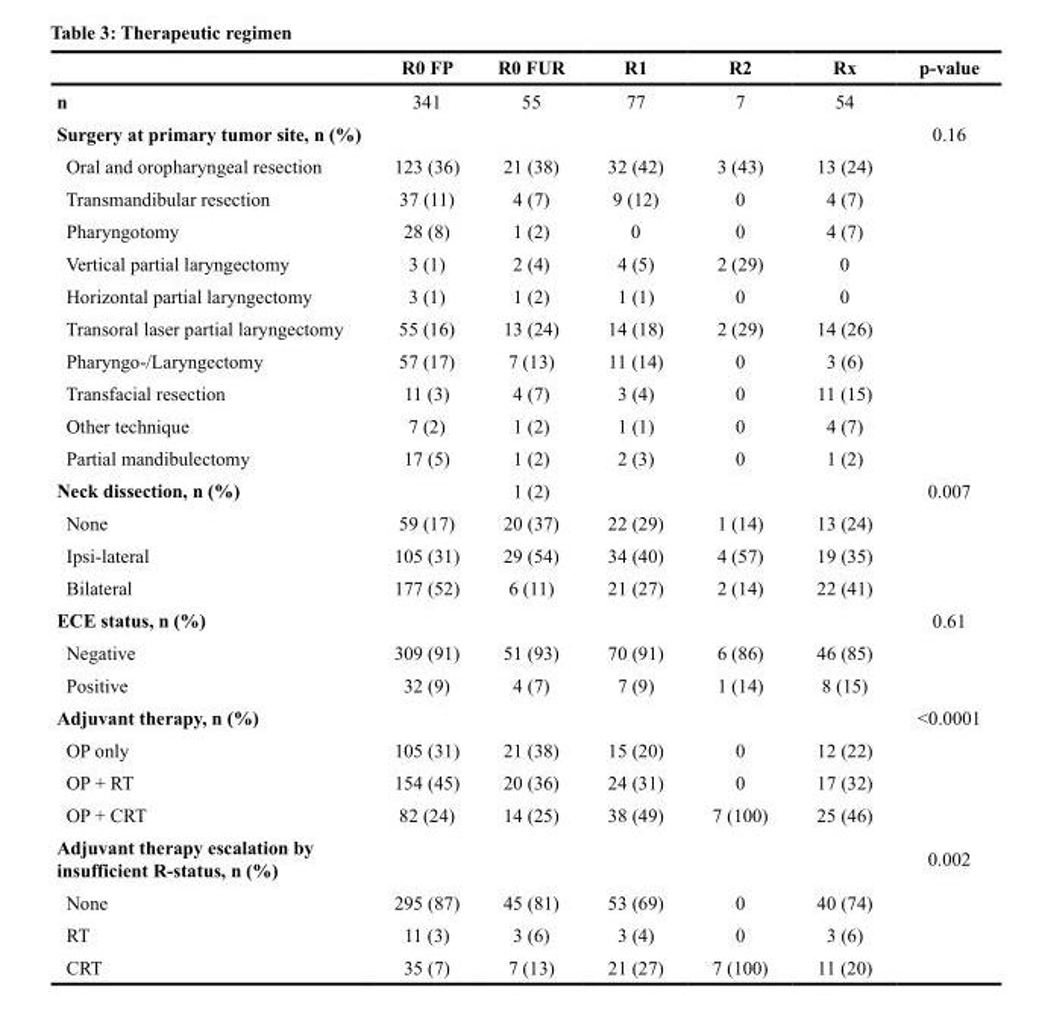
<table><thead><tr><td></td><td>R0 FP</td><td>R0 FUR</td><td>R1</td><td>R2</td><td>Rx</td><td>p-value</td></tr></thead><tbody><tr><td>n</td><td>341</td><td>55</td><td>77</td><td>7</td><td>54</td><td></td></tr><tr><td>Surgery at primary tumor site, n (%)</td><td></td><td></td><td></td><td></td><td></td><td>0.16</td></tr><tr><td>Oral and oropharyngeal resection</td><td>123 (36)</td><td>21 (38)</td><td>32 (42)</td><td>3 (43)</td><td>13 (24)</td><td></td></tr><tr><td>Transmandibular resection</td><td>37 (11)</td><td>4 (7)</td><td>9 (12)</td><td>0</td><td>4 (7)</td><td></td></tr><tr><td>Pharyngotomy</td><td>28 (8)</td><td>1 (2)</td><td>0</td><td>0</td><td>4 (7)</td><td></td></tr><tr><td>Vertical partial laryngectomy</td><td>3 (1)</td><td>2 (4)</td><td>4 (5)</td><td>2 (29)</td><td>0</td><td></td></tr><tr><td>Horizontal partial laryngectomy</td><td>3 (1)</td><td>1 (2)</td><td>1 (1)</td><td>0</td><td>0</td><td></td></tr><tr><td>Transoral laser partial laryngectomy</td><td>55 (16)</td><td>13 (24)</td><td>14 (18)</td><td>2 (29)</td><td>14 (26)</td><td></td></tr><tr><td>Pharyngo-/Laryngectomy</td><td>57 (17)</td><td>7 (13)</td><td>11 (14)</td><td>0</td><td>3 (6)</td><td></td></tr><tr><td>Transfacial resection</td><td>11 (3)</td><td>4 (7)</td><td>3 (4)</td><td>0</td><td>11 (15)</td><td></td></tr><tr><td>Other technique</td><td>7 (2)</td><td>1 (2)</td><td>1 (1)</td><td>0</td><td>4 (7)</td><td></td></tr><tr><td>Partial mandibulectomy</td><td>17 (5)</td><td>1 (2)</td><td>2 (3)</td><td>0</td><td>1 (2)</td><td></td></tr><tr><td>Neck dissection, n (%)</td><td></td><td>1 (2)</td><td></td><td></td><td></td><td>0.007</td></tr><tr><td>None</td><td>59 (17)</td><td>20 (37)</td><td>22 (29)</td><td>1 (14)</td><td>13 (24)</td><td></td></tr><tr><td>Ipsi-lateral</td><td>105 (31)</td><td>29 (54)</td><td>34 (40)</td><td>4 (57)</td><td>19 (35)</td><td></td></tr><tr><td>Bilateral</td><td>177 (52)</td><td>6 (11)</td><td>21 (27)</td><td>2 (14)</td><td>22 (41)</td><td></td></tr><tr><td>ECE status, n (%)</td><td></td><td></td><td></td><td></td><td></td><td>0.61</td></tr><tr><td>Negative</td><td>309 (91)</td><td>51 (93)</td><td>70 (91)</td><td>6 (86)</td><td>46 (85)</td><td></td></tr><tr><td>Positive</td><td>32 (9)</td><td>4 (7)</td><td>7 (9)</td><td>1 (14)</td><td>8 (15)</td><td></td></tr><tr><td>Adjuvant therapy, n (%)</td><td></td><td></td><td></td><td></td><td></td><td>&lt;0.0001</td></tr><tr><td>OP only</td><td>105 (31)</td><td>21 (38)</td><td>15 (20)</td><td>0</td><td>12 (22)</td><td></td></tr><tr><td>OP + RT</td><td>154 (45)</td><td>20 (36)</td><td>24 (31)</td><td>0</td><td>17 (32)</td><td></td></tr><tr><td>OP + CRT</td><td>82 (24)</td><td>14 (25)</td><td>38 (49)</td><td>7 (100)</td><td>25 (46)</td><td></td></tr><tr><td>Adjuvant therapy escalation by insufficient R-status, n (%)</td><td></td><td></td><td></td><td></td><td></td><td>0.002</td></tr><tr><td>None</td><td>295 (87)</td><td>45 (81)</td><td>53 (69)</td><td>0</td><td>40 (74)</td><td></td></tr><tr><td>RT</td><td>11 (3)</td><td>3 (6)</td><td>3 (4)</td><td>0</td><td>3 (6)</td><td></td></tr><tr><td>CRT</td><td>35 (7)</td><td>7 (13)</td><td>21 (27)</td><td>7 (100)</td><td>11 (20)</td><td></td></tr></tbody></table>